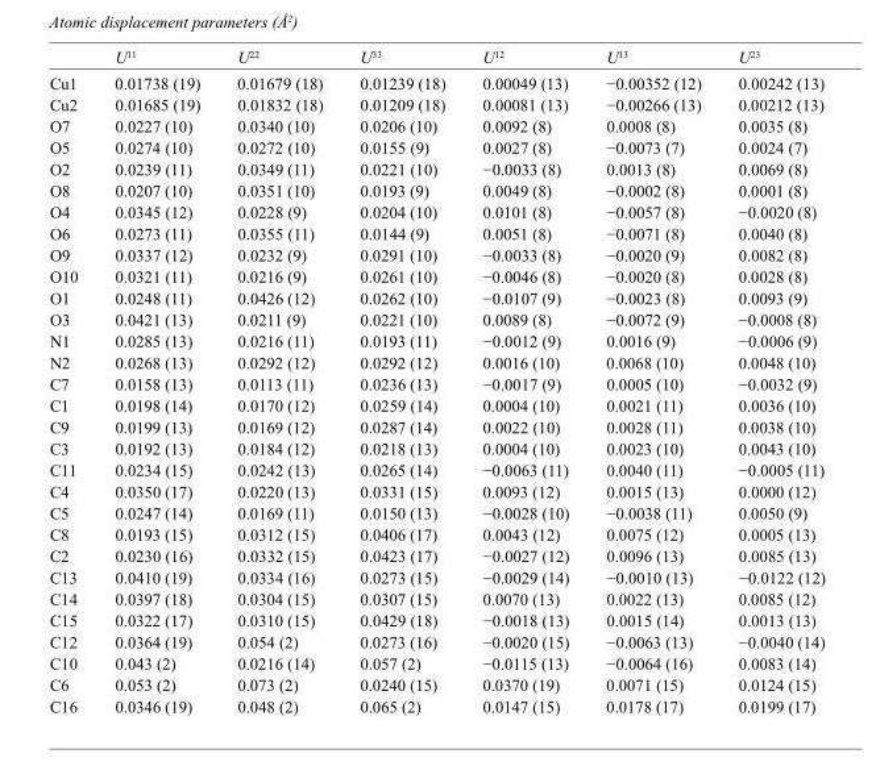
<table><thead><tr><td></td><td>U<sup>11</sup></td><td>U<sup>22</sup></td><td>U<sup>33</sup></td><td>U<sup>12</sup></td><td>U<sup>13</sup></td><td>U<sup>23</sup></td></tr></thead><tbody><tr><td>Cu1</td><td>0.01738 (19)</td><td>0.01679 (18)</td><td>0.01239 (18)</td><td>0.00049 (13)</td><td>−0.00352 (12)</td><td>0.00242 (13)</td></tr><tr><td>Cu2</td><td>0.01685 (19)</td><td>0.01832 (18)</td><td>0.01209 (18)</td><td>0.00081 (13)</td><td>−0.00266 (13)</td><td>0.00212 (13)</td></tr><tr><td>O7</td><td>0.0227 (10)</td><td>0.0340 (10)</td><td>0.0206 (10)</td><td>0.0092 (8)</td><td>0.0008 (8)</td><td>0.0035 (8)</td></tr><tr><td>O5</td><td>0.0274 (10)</td><td>0.0272 (10)</td><td>0.0155 (9)</td><td>0.0027 (8)</td><td>−0.0073 (7)</td><td>0.0024 (7)</td></tr><tr><td>O2</td><td>0.0239 (11)</td><td>0.0349 (11)</td><td>0.0221 (10)</td><td>−0.0033 (8)</td><td>0.0013 (8)</td><td>0.0069 (8)</td></tr><tr><td>O8</td><td>0.0207 (10)</td><td>0.0351 (10)</td><td>0.0193 (9)</td><td>0.0049 (8)</td><td>−0.0002 (8)</td><td>0.0001 (8)</td></tr><tr><td>O4</td><td>0.0345 (12)</td><td>0.0228 (9)</td><td>0.0204 (10)</td><td>0.0101 (8)</td><td>−0.0057 (8)</td><td>−0.0020 (8)</td></tr><tr><td>O6</td><td>0.0273 (11)</td><td>0.0355 (11)</td><td>0.0144 (9)</td><td>0.0051 (8)</td><td>−0.0071 (8)</td><td>0.0040 (8)</td></tr><tr><td>O9</td><td>0.0337 (12)</td><td>0.0232 (9)</td><td>0.0291 (10)</td><td>−0.0033 (8)</td><td>−0.0020 (9)</td><td>0.0082 (8)</td></tr><tr><td>O10</td><td>0.0321 (11)</td><td>0.0216 (9)</td><td>0.0261 (10)</td><td>−0.0046 (8)</td><td>−0.0020 (8)</td><td>0.0028 (8)</td></tr><tr><td>O1</td><td>0.0248 (11)</td><td>0.0426 (12)</td><td>0.0262 (10)</td><td>−0.0107 (9)</td><td>−0.0023 (8)</td><td>0.0093 (9)</td></tr><tr><td>O3</td><td>0.0421 (13)</td><td>0.0211 (9)</td><td>0.0221 (10)</td><td>0.0089 (8)</td><td>−0.0072 (9)</td><td>−0.0008 (8)</td></tr><tr><td>N1</td><td>0.0285 (13)</td><td>0.0216 (11)</td><td>0.0193 (11)</td><td>−0.0012 (9)</td><td>0.0016 (9)</td><td>−0.0006 (9)</td></tr><tr><td>N2</td><td>0.0268 (13)</td><td>0.0292 (12)</td><td>0.0292 (12)</td><td>0.0016 (10)</td><td>0.0068 (10)</td><td>0.0048 (10)</td></tr><tr><td>C7</td><td>0.0158 (13)</td><td>0.0113 (11)</td><td>0.0236 (13)</td><td>−0.0017 (9)</td><td>0.0005 (10)</td><td>−0.0032 (9)</td></tr><tr><td>C1</td><td>0.0198 (14)</td><td>0.0170 (12)</td><td>0.0259 (14)</td><td>0.0004 (10)</td><td>0.0021 (11)</td><td>0.0036 (10)</td></tr><tr><td>C9</td><td>0.0199 (13)</td><td>0.0169 (12)</td><td>0.0287 (14)</td><td>0.0022 (10)</td><td>0.0028 (11)</td><td>0.0038 (10)</td></tr><tr><td>C3</td><td>0.0192 (13)</td><td>0.0184 (12)</td><td>0.0218 (13)</td><td>0.0004 (10)</td><td>0.0023 (10)</td><td>0.0043 (10)</td></tr><tr><td>C11</td><td>0.0234 (15)</td><td>0.0242 (13)</td><td>0.0265 (14)</td><td>−0.0063 (11)</td><td>0.0040 (11)</td><td>−0.0005 (11)</td></tr><tr><td>C4</td><td>0.0350 (17)</td><td>0.0220 (13)</td><td>0.0331 (15)</td><td>0.0093 (12)</td><td>0.0015 (13)</td><td>0.0000 (12)</td></tr><tr><td>C5</td><td>0.0247 (14)</td><td>0.0169 (11)</td><td>0.0150 (13)</td><td>−0.0028 (10)</td><td>−0.0038 (11)</td><td>0.0050 (9)</td></tr><tr><td>C8</td><td>0.0193 (15)</td><td>0.0312 (15)</td><td>0.0406 (17)</td><td>0.0043 (12)</td><td>0.0075 (12)</td><td>0.0005 (13)</td></tr><tr><td>C2</td><td>0.0230 (16)</td><td>0.0332 (15)</td><td>0.0423 (17)</td><td>−0.0027 (12)</td><td>0.0096 (13)</td><td>0.0085 (13)</td></tr><tr><td>C13</td><td>0.0410 (19)</td><td>0.0334 (16)</td><td>0.0273 (15)</td><td>−0.0029 (14)</td><td>−0.0010 (13)</td><td>−0.0122 (12)</td></tr><tr><td>C14</td><td>0.0397 (18)</td><td>0.0304 (15)</td><td>0.0307 (15)</td><td>0.0070 (13)</td><td>0.0022 (13)</td><td>0.0085 (12)</td></tr><tr><td>C15</td><td>0.0322 (17)</td><td>0.0310 (15)</td><td>0.0429 (18)</td><td>−0.0018 (13)</td><td>0.0015 (14)</td><td>0.0013 (13)</td></tr><tr><td>C12</td><td>0.0364 (19)</td><td>0.054 (2)</td><td>0.0273 (16)</td><td>−0.0020 (15)</td><td>−0.0063 (13)</td><td>−0.0040 (14)</td></tr><tr><td>C10</td><td>0.043 (2)</td><td>0.0216 (14)</td><td>0.057 (2)</td><td>−0.0115 (13)</td><td>−0.0064 (16)</td><td>0.0083 (14)</td></tr><tr><td>C6</td><td>0.053 (2)</td><td>0.073 (2)</td><td>0.0240 (15)</td><td>0.0370 (19)</td><td>0.0071 (15)</td><td>0.0124 (15)</td></tr><tr><td>C16</td><td>0.0346 (19)</td><td>0.048 (2)</td><td>0.065 (2)</td><td>0.0147 (15)</td><td>0.0178 (17)</td><td>0.0199 (17)</td></tr></tbody></table>